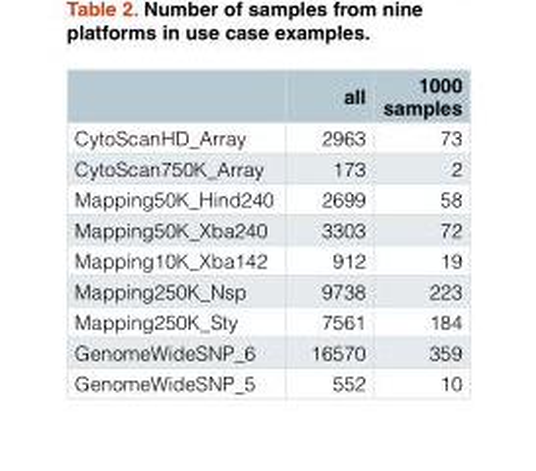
<table><thead><tr><td></td><td>all</td><td>1000 samples</td></tr></thead><tbody><tr><td>CytoScanHD_Array</td><td>2963</td><td>73</td></tr><tr><td>CytoScan750K_Array</td><td>173</td><td>2</td></tr><tr><td>Mapping50K_Hind240</td><td>2699</td><td>58</td></tr><tr><td>Mapping50K_Xba240</td><td>3303</td><td>72</td></tr><tr><td>Mapping10K_Xba142</td><td>912</td><td>19</td></tr><tr><td>Mapping250K_Nsp</td><td>9738</td><td>223</td></tr><tr><td>Mapping250K_Sty</td><td>7561</td><td>184</td></tr><tr><td>GenomeWideSNP_6</td><td>16570</td><td>359</td></tr><tr><td>GenomeWideSNP_5</td><td>552</td><td>10</td></tr></tbody></table>